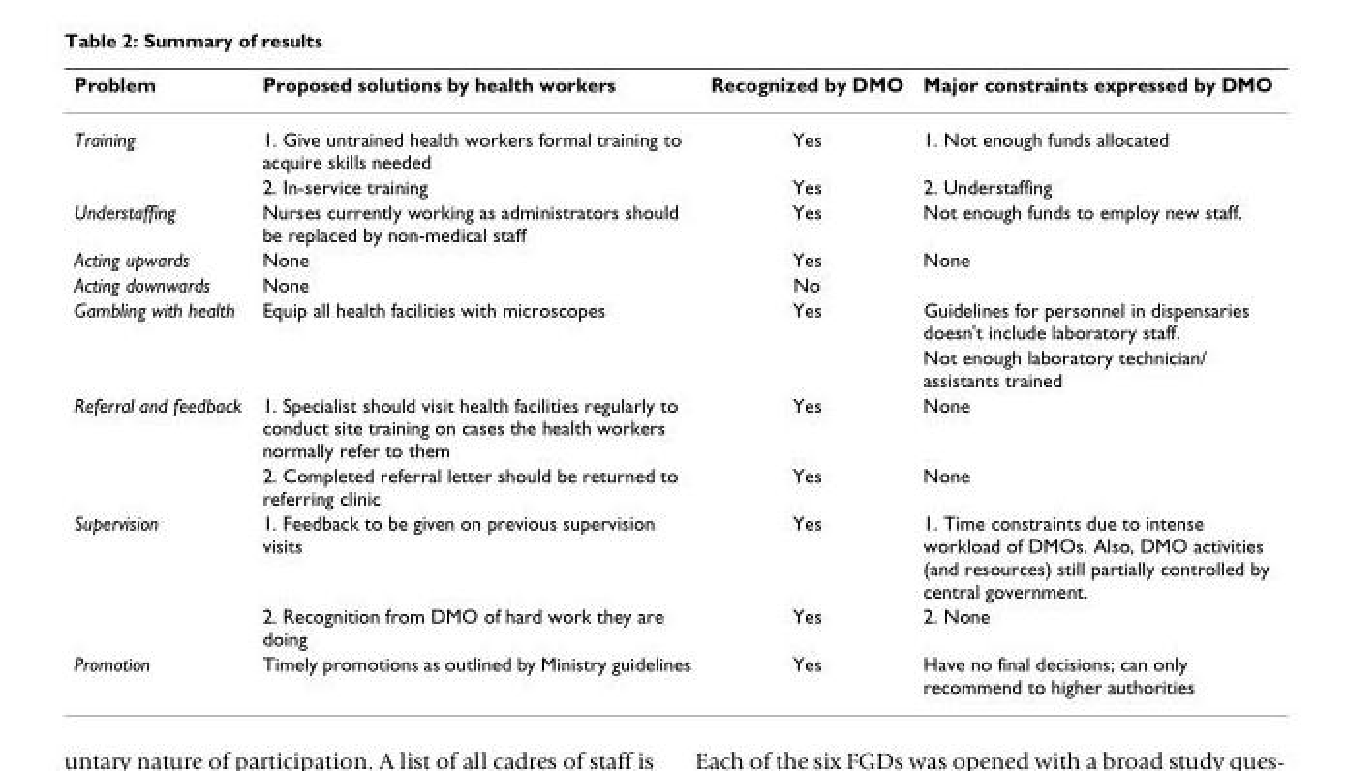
<table><thead><tr><td>Problem</td><td>Proposed solutions by health workers</td><td>Recognized by DMO</td><td>Major constraints expressed by DMO</td></tr></thead><tbody><tr><td rowspan="2">Training</td><td>1. Give untrained health workers formal training to acquire skills needed</td><td>Yes</td><td>1. Not enough funds allocated</td></tr><tr><td>2. In-service training</td><td>Yes</td><td>2. Understaffing</td></tr><tr><td>Understaffing</td><td>Nurses currently working as administrators should be replaced by non-medical staff</td><td>Yes</td><td>Not enough funds to employ new staff.</td></tr><tr><td>Acting upwards</td><td>None</td><td>Yes</td><td>None</td></tr><tr><td>Acting downwards</td><td>None</td><td>No</td><td></td></tr><tr><td rowspan="2">Gambling with health</td><td>Equip all health facilities with microscopes</td><td>Yes</td><td>Guidelines for personnel in dispensaries doesn&#x27;t include laboratory staff.</td></tr><tr><td></td><td></td><td>Not enough laboratory technician/ assistants trained</td></tr><tr><td rowspan="2">Referral and feedback</td><td>1. Specialist should visit health facilities regularly to conduct site training on cases the health workers normally refer to them</td><td>Yes</td><td>None</td></tr><tr><td>2. Completed referral letter should be returned to referring clinic</td><td>Yes</td><td>None</td></tr><tr><td rowspan="2">Supervision</td><td>1. Feedback to be given on previous supervision visits</td><td>Yes</td><td>1. Time constraints due to intense workload of DMOs. Also, DMO activities (and resources) still partially controlled by central government.</td></tr><tr><td>2. Recognition from DMO of hard work they are doing</td><td>Yes</td><td>2. None</td></tr><tr><td>Promotion</td><td>Timely promotions as outlined by Ministry guidelines</td><td>Yes</td><td>Have no final decisions; can only recommend to higher authorities</td></tr></tbody></table>